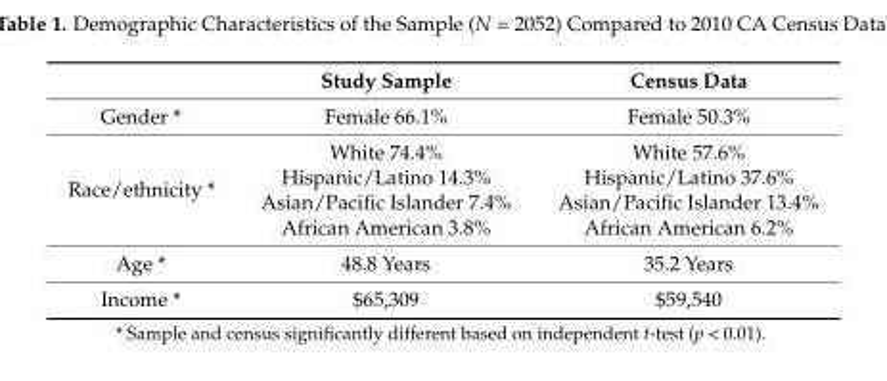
<table><thead><tr><td></td><td>Study Sample</td><td>Census Data</td></tr></thead><tbody><tr><td>Gender *</td><td>Female 66.1%</td><td>Female 50.3%</td></tr><tr><td rowspan="4">Race/ethnicity *</td><td>White 74.4%</td><td>White 57.6%</td></tr><tr><td>Hispanic/Latino 14.3%</td><td>Hispanic/Latino 37.6%</td></tr><tr><td>Asian/Pacific Islander 7.4%</td><td>Asian/Pacific Islander 13.4%</td></tr><tr><td>African American 3.8%</td><td>African American 6.2%</td></tr><tr><td>Age *</td><td>48.8 Years</td><td>35.2 Years</td></tr><tr><td>Income *</td><td>$65,309</td><td>$59,540</td></tr></tbody></table>